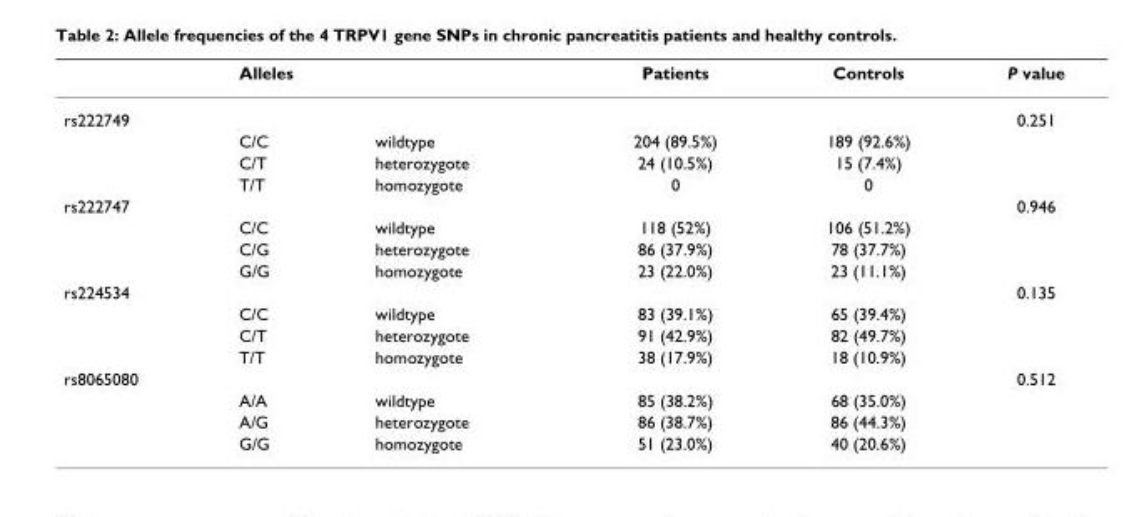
<table><thead><tr><td></td><td>Alleles</td><td></td><td>Patients</td><td>Controls</td><td>P value</td></tr></thead><tbody><tr><td rowspan="4">rs222749</td><td></td><td></td><td></td><td></td><td>0.251</td></tr><tr><td>C/C</td><td>wildtype</td><td>204 (89.5%)</td><td>189 (92.6%)</td><td></td></tr><tr><td>C/T</td><td>heterozygote</td><td>24 (10.5%)</td><td>15 (7.4%)</td><td></td></tr><tr><td>T/T</td><td>homozygote</td><td>0</td><td>0</td><td></td></tr><tr><td rowspan="4">rs222747</td><td></td><td></td><td></td><td></td><td>0.946</td></tr><tr><td>C/C</td><td>wildtype</td><td>118 (52%)</td><td>106 (51.2%)</td><td></td></tr><tr><td>C/G</td><td>heterozygote</td><td>86 (37.9%)</td><td>78 (37.7%)</td><td></td></tr><tr><td>G/G</td><td>homozygote</td><td>23 (22.0%)</td><td>23 (11.1%)</td><td></td></tr><tr><td rowspan="4">rs224534</td><td></td><td></td><td></td><td></td><td>0.135</td></tr><tr><td>C/C</td><td>wildtype</td><td>83 (39.1%)</td><td>65 (39.4%)</td><td></td></tr><tr><td>C/T</td><td>heterozygote</td><td>91 (42.9%)</td><td>82 (49.7%)</td><td></td></tr><tr><td>T/T</td><td>homozygote</td><td>38 (17.9%)</td><td>18 (10.9%)</td><td></td></tr><tr><td rowspan="4">rs8065080</td><td></td><td></td><td></td><td></td><td>0.512</td></tr><tr><td>A/A</td><td>wildtype</td><td>85 (38.2%)</td><td>68 (35.0%)</td><td></td></tr><tr><td>A/G</td><td>heterozygote</td><td>86 (38.7%)</td><td>86 (44.3%)</td><td></td></tr><tr><td>G/G</td><td>homozygote</td><td>51 (23.0%)</td><td>40 (20.6%)</td><td></td></tr></tbody></table>